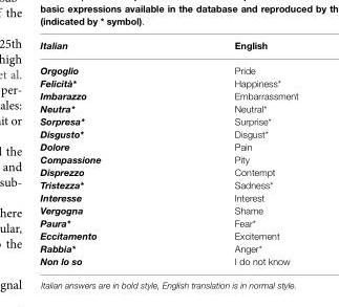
<table><thead><tr><td>Italian</td><td>English</td></tr></thead><tbody><tr><td>Orgoglio</td><td>Pride</td></tr><tr><td>Felicità*</td><td>Happiness*</td></tr><tr><td>Imbarazzo</td><td>Embarrassment</td></tr><tr><td>Neutra*</td><td>Neutral*</td></tr><tr><td>Sorpresa*</td><td>Surprise*</td></tr><tr><td>Disgusto*</td><td>Disgust*</td></tr><tr><td>Dolore</td><td>Pain</td></tr><tr><td>Compassione</td><td>Pity</td></tr><tr><td>Disprezzo</td><td>Contempt</td></tr><tr><td>Tristezza*</td><td>Sadness*</td></tr><tr><td>Interesse</td><td>Interest</td></tr><tr><td>Vergogna</td><td>Shame</td></tr><tr><td>Paura*</td><td>Fear*</td></tr><tr><td>Eccitamento</td><td>Excitement</td></tr><tr><td>Rabbia*</td><td>Anger*</td></tr><tr><td>Non lo so</td><td>I do not know</td></tr></tbody></table>